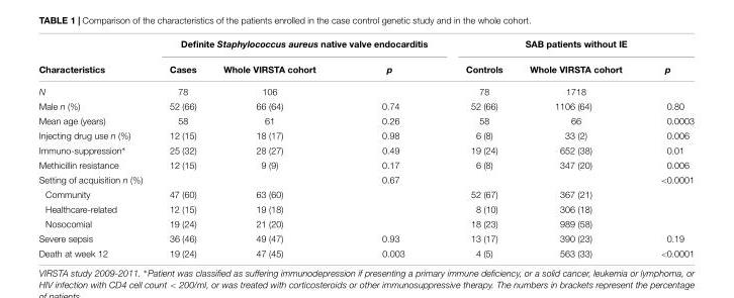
<table><thead><tr><td rowspan="2">Characteristics</td><td colspan="3">Definite Staphylococcus aureus native valve endocarditis</td><td colspan="3">SAB patients without IE</td></tr><tr><td>Cases</td><td>Whole VIRSTA cohort</td><td>p</td><td>Controls</td><td>Whole VIRSTA cohort</td><td>p</td></tr></thead><tbody><tr><td>N</td><td>78</td><td>106</td><td></td><td>78</td><td>1718</td><td></td></tr><tr><td>Male n (%)</td><td>52 (66)</td><td>66 (64)</td><td>0.74</td><td>52 (66)</td><td>1106 (64)</td><td>0.80</td></tr><tr><td>Mean age (years)</td><td>58</td><td>61</td><td>0.26</td><td>58</td><td>66</td><td>0.0003</td></tr><tr><td>Injecting drug use n (%)</td><td>12 (15)</td><td>18 (17)</td><td>0.98</td><td>6 (8)</td><td>33 (2)</td><td>0.006</td></tr><tr><td>Immuno-suppression∗</td><td>25 (32)</td><td>28 (27)</td><td>0.49</td><td>19 (24)</td><td>652 (38)</td><td>0.01</td></tr><tr><td>Methicillin resistance</td><td>12 (15)</td><td>9 (9)</td><td>0.17</td><td>6 (8)</td><td>347 (20)</td><td>0.006</td></tr><tr><td>Setting of acquisition n (%)</td><td></td><td></td><td>0.67</td><td></td><td></td><td>&lt;0.0001</td></tr><tr><td>Community</td><td>47 (60)</td><td>63 (60)</td><td></td><td>52 (67)</td><td>367 (21)</td><td></td></tr><tr><td>Healthcare-related</td><td>12 (15)</td><td>19 (18)</td><td></td><td>8 (10)</td><td>306 (18)</td><td></td></tr><tr><td>Nosocomial</td><td>19 (24)</td><td>21 (20)</td><td></td><td>18 (23)</td><td>989 (58)</td><td></td></tr><tr><td>Severe sepsis</td><td>36 (46)</td><td>49 (47)</td><td>0.93</td><td>13 (17)</td><td>390 (23)</td><td>0.19</td></tr><tr><td>Death at week 12</td><td>19 (24)</td><td>47 (45)</td><td>0.003</td><td>4 (5)</td><td>563 (33)</td><td>&lt;0.0001</td></tr></tbody></table>